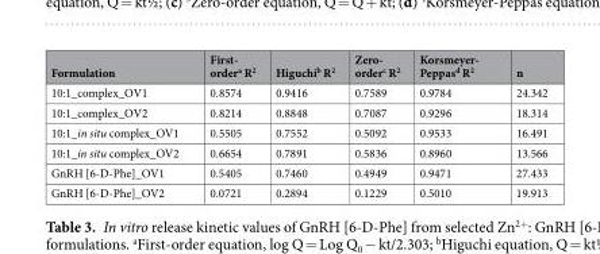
<table><thead><tr><td>Formulation</td><td>First- order<sup>a</sup> R<sup>2</sup></td><td>Higuchi<sup>b</sup> R<sup>2</sup></td><td>Zero- order<sup>c</sup> R<sup>2</sup></td><td>Korsmeyer- Peppas<sup>d</sup> R<sup>2</sup></td><td>n</td></tr></thead><tbody><tr><td>10:1_complex_OV1</td><td>0.8574</td><td>0.9416</td><td>0.7589</td><td>0.9784</td><td>24.342</td></tr><tr><td>10:1_complex_OV2</td><td>0.8214</td><td>0.8848</td><td>0.7087</td><td>0.9296</td><td>18.314</td></tr><tr><td>10:1_in situ complex_OV1</td><td>0.5505</td><td>0.7552</td><td>0.5092</td><td>0.9533</td><td>16.491</td></tr><tr><td>10:1_in situ complex_OV2</td><td>0.6654</td><td>0.7891</td><td>0.5836</td><td>0.8960</td><td>13.566</td></tr><tr><td>GnRH [6-D-Phe]_OV1</td><td>0.5405</td><td>0.7460</td><td>0.4949</td><td>0.9471</td><td>27.433</td></tr><tr><td>GnRH [6-D-Phe]_OV2</td><td>0.0721</td><td>0.2894</td><td>0.1229</td><td>0.5010</td><td>19.913</td></tr></tbody></table>